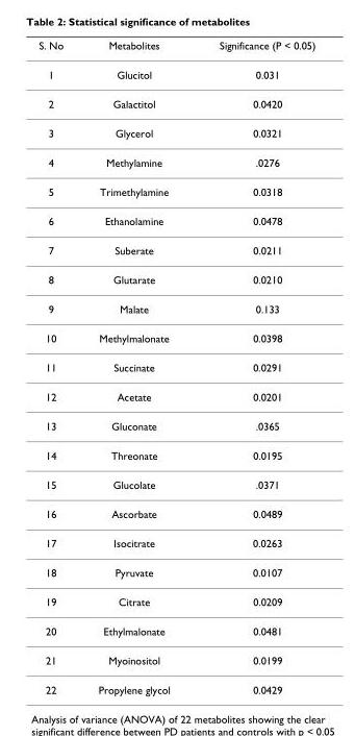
<table><thead><tr><td>S. No</td><td>Metabolites</td><td>Significance (P &lt; 0.05)</td></tr></thead><tbody><tr><td>1</td><td>Glucitol</td><td>0.031</td></tr><tr><td>2</td><td>Galactitol</td><td>0.0420</td></tr><tr><td>3</td><td>Glycerol</td><td>0.0321</td></tr><tr><td>4</td><td>Methylamine</td><td>.0276</td></tr><tr><td>5</td><td>Trimethylamine</td><td>0.0318</td></tr><tr><td>6</td><td>Ethanolamine</td><td>0.0478</td></tr><tr><td>7</td><td>Suberate</td><td>0.0211</td></tr><tr><td>8</td><td>Glutarate</td><td>0.0210</td></tr><tr><td>9</td><td>Malate</td><td>0.133</td></tr><tr><td>10</td><td>Methylmalonate</td><td>0.0398</td></tr><tr><td>11</td><td>Succinate</td><td>0.0291</td></tr><tr><td>12</td><td>Acetate</td><td>0.0201</td></tr><tr><td>13</td><td>Gluconate</td><td>.0365</td></tr><tr><td>14</td><td>Threonate</td><td>0.0195</td></tr><tr><td>15</td><td>Glucolate</td><td>.0371</td></tr><tr><td>16</td><td>Ascorbate</td><td>0.0489</td></tr><tr><td>17</td><td>Isocitrate</td><td>0.0263</td></tr><tr><td>18</td><td>Pyruvate</td><td>0.0107</td></tr><tr><td>19</td><td>Citrate</td><td>0.0209</td></tr><tr><td>20</td><td>Ethylmalonate</td><td>0.0481</td></tr><tr><td>21</td><td>Myoinositol</td><td>0.0199</td></tr><tr><td>22</td><td>Propylene glycol</td><td>0.0429</td></tr></tbody></table>